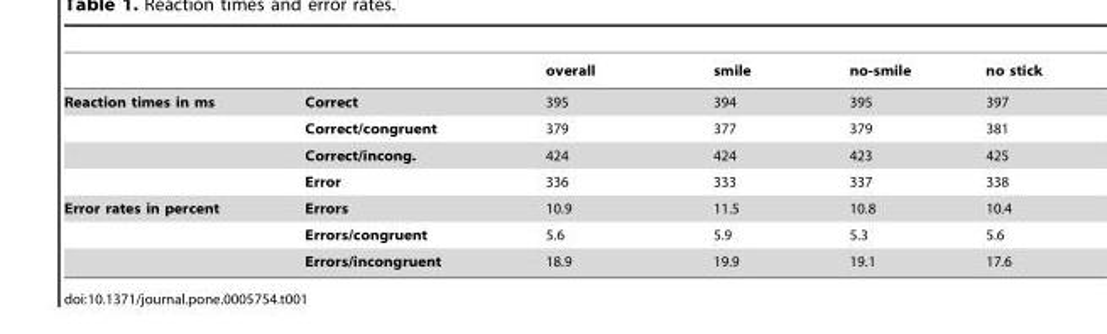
<table><thead><tr><td></td><td></td><td>overall</td><td>smile</td><td>no-smile</td><td>no stick</td></tr></thead><tbody><tr><td rowspan="4">Reaction times in ms</td><td>Correct</td><td>395</td><td>394</td><td>395</td><td>397</td></tr><tr><td>Correct/congruent</td><td>379</td><td>377</td><td>379</td><td>381</td></tr><tr><td>Correct/incong.</td><td>424</td><td>424</td><td>423</td><td>425</td></tr><tr><td>Error</td><td>336</td><td>333</td><td>337</td><td>338</td></tr><tr><td rowspan="3">Error rates in percent</td><td>Errors</td><td>10.9</td><td>11.5</td><td>10.8</td><td>10.4</td></tr><tr><td>Errors/congruent</td><td>5.6</td><td>5.9</td><td>5.3</td><td>5.6</td></tr><tr><td>Errors/incongruent</td><td>18.9</td><td>19.9</td><td>19.1</td><td>17.6</td></tr></tbody></table>